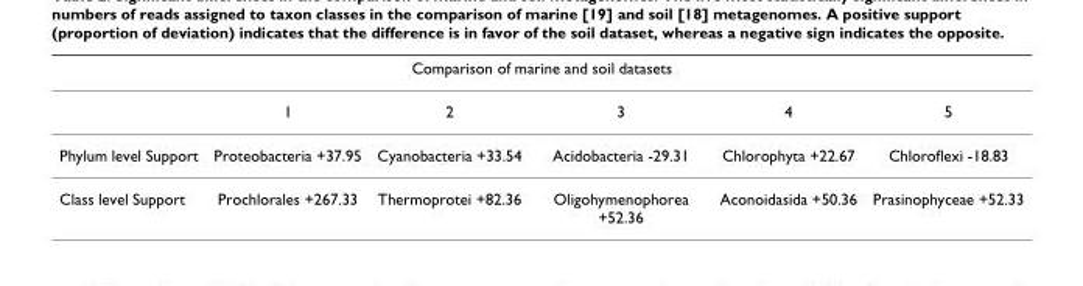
<table><thead><tr><td colspan="6">Comparison of marine and soil datasets</td></tr><tr><td></td><td>1</td><td>2</td><td>3</td><td>4</td><td>5</td></tr></thead><tbody><tr><td>Phylum level Support</td><td>Proteobacteria +37.95</td><td>Cyanobacteria +33.54</td><td>Acidobacteria -29.31</td><td>Chlorophyta +22.67</td><td>Chloroflexi -18.83</td></tr><tr><td>Class level Support</td><td>Prochlorales +267.33</td><td>Thermoprotei +82.36</td><td>Oligohymenophorea +52.36</td><td>Aconoidasida +50.36</td><td>Prasinophyceae +52.33</td></tr></tbody></table>